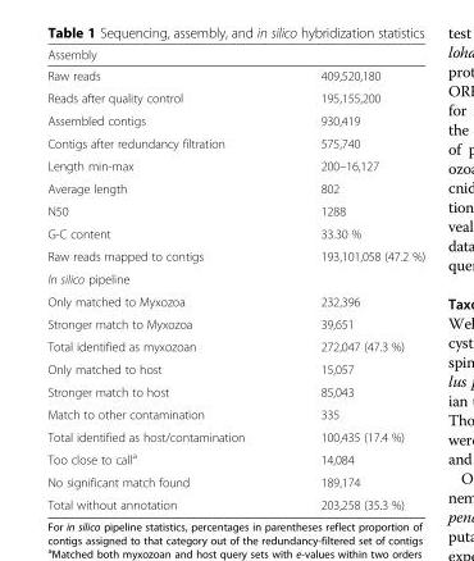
<table><thead><tr><td>Assembly</td><td></td></tr></thead><tbody><tr><td>Raw reads</td><td>409,520,180</td></tr><tr><td>Reads after quality control</td><td>195,155,200</td></tr><tr><td>Assembled contigs</td><td>930,419</td></tr><tr><td>Contigs after redundancy filtration</td><td>575,740</td></tr><tr><td>Length min-max</td><td>200–16,127</td></tr><tr><td>Average length</td><td>802</td></tr><tr><td>N50</td><td>1288</td></tr><tr><td>G-C content</td><td>33.30 %</td></tr><tr><td>Raw reads mapped to contigs</td><td>193,101,058 (47.2 %)</td></tr><tr><td colspan="2">In silico pipeline</td></tr><tr><td>Only matched to Myxozoa</td><td>232,396</td></tr><tr><td>Stronger match to Myxozoa</td><td>39,651</td></tr><tr><td>Total identified as myxozoan</td><td>272,047 (47.3 %)</td></tr><tr><td>Only matched to host</td><td>15,057</td></tr><tr><td>Stronger match to host</td><td>85,043</td></tr><tr><td>Match to other contamination</td><td>335</td></tr><tr><td>Total identified as host/contamination</td><td>100,435 (17.4 %)</td></tr><tr><td>Too close to call<sup>a</sup></td><td>14,084</td></tr><tr><td>No significant match found</td><td>189,174</td></tr><tr><td>Total without annotation</td><td>203,258 (35.3 %)</td></tr></tbody></table>